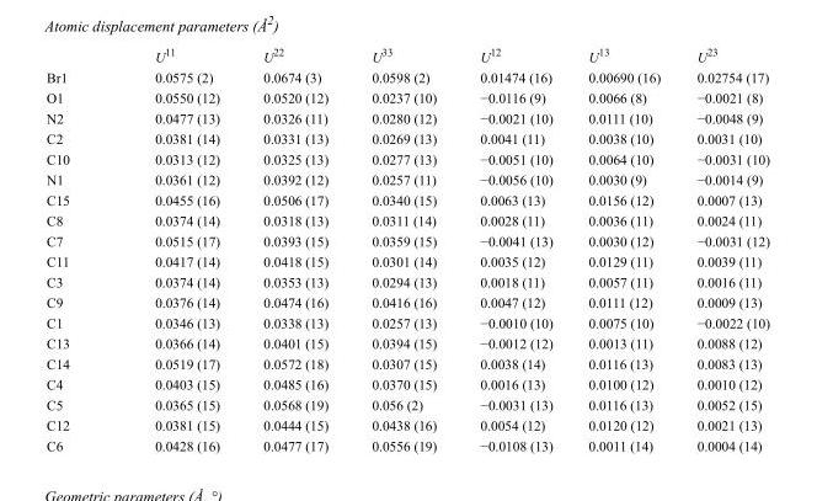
<table><thead><tr><td></td><td>U<sup>11</sup></td><td>U<sup>22</sup></td><td>U<sup>33</sup></td><td>U<sup>12</sup></td><td>U<sup>13</sup></td><td>U<sup>23</sup></td></tr></thead><tbody><tr><td>Br1</td><td>0.0575 (2)</td><td>0.0674 (3)</td><td>0.0598 (2)</td><td>0.01474 (16)</td><td>0.00690 (16)</td><td>0.02754 (17)</td></tr><tr><td>O1</td><td>0.0550 (12)</td><td>0.0520 (12)</td><td>0.0237 (10)</td><td>−0.0116 (9)</td><td>0.0066 (8)</td><td>−0.0021 (8)</td></tr><tr><td>N2</td><td>0.0477 (13)</td><td>0.0326 (11)</td><td>0.0280 (12)</td><td>−0.0021 (10)</td><td>0.0111 (10)</td><td>−0.0048 (9)</td></tr><tr><td>C2</td><td>0.0381 (14)</td><td>0.0331 (13)</td><td>0.0269 (13)</td><td>0.0041 (11)</td><td>0.0038 (10)</td><td>0.0031 (10)</td></tr><tr><td>C10</td><td>0.0313 (12)</td><td>0.0325 (13)</td><td>0.0277 (13)</td><td>−0.0051 (10)</td><td>0.0064 (10)</td><td>−0.0031 (10)</td></tr><tr><td>N1</td><td>0.0361 (12)</td><td>0.0392 (12)</td><td>0.0257 (11)</td><td>−0.0056 (10)</td><td>0.0030 (9)</td><td>−0.0014 (9)</td></tr><tr><td>C15</td><td>0.0455 (16)</td><td>0.0506 (17)</td><td>0.0340 (15)</td><td>0.0063 (13)</td><td>0.0156 (12)</td><td>0.0007 (13)</td></tr><tr><td>C8</td><td>0.0374 (14)</td><td>0.0318 (13)</td><td>0.0311 (14)</td><td>0.0028 (11)</td><td>0.0036 (11)</td><td>0.0024 (11)</td></tr><tr><td>C7</td><td>0.0515 (17)</td><td>0.0393 (15)</td><td>0.0359 (15)</td><td>−0.0041 (13)</td><td>0.0030 (12)</td><td>−0.0031 (12)</td></tr><tr><td>C11</td><td>0.0417 (14)</td><td>0.0418 (15)</td><td>0.0301 (14)</td><td>0.0035 (12)</td><td>0.0129 (11)</td><td>0.0039 (11)</td></tr><tr><td>C3</td><td>0.0374 (14)</td><td>0.0353 (13)</td><td>0.0294 (13)</td><td>0.0018 (11)</td><td>0.0057 (11)</td><td>0.0016 (11)</td></tr><tr><td>C9</td><td>0.0376 (14)</td><td>0.0474 (16)</td><td>0.0416 (16)</td><td>0.0047 (12)</td><td>0.0111 (12)</td><td>0.0009 (13)</td></tr><tr><td>C1</td><td>0.0346 (13)</td><td>0.0338 (13)</td><td>0.0257 (13)</td><td>−0.0010 (10)</td><td>0.0075 (10)</td><td>−0.0022 (10)</td></tr><tr><td>C13</td><td>0.0366 (14)</td><td>0.0401 (15)</td><td>0.0394 (15)</td><td>−0.0012 (12)</td><td>0.0013 (11)</td><td>0.0088 (12)</td></tr><tr><td>C14</td><td>0.0519 (17)</td><td>0.0572 (18)</td><td>0.0307 (15)</td><td>0.0038 (14)</td><td>0.0116 (13)</td><td>0.0083 (13)</td></tr><tr><td>C4</td><td>0.0403 (15)</td><td>0.0485 (16)</td><td>0.0370 (15)</td><td>0.0016 (13)</td><td>0.0100 (12)</td><td>0.0010 (12)</td></tr><tr><td>C5</td><td>0.0365 (15)</td><td>0.0568 (19)</td><td>0.056 (2)</td><td>−0.0031 (13)</td><td>0.0116 (13)</td><td>0.0052 (15)</td></tr><tr><td>C12</td><td>0.0381 (15)</td><td>0.0444 (15)</td><td>0.0438 (16)</td><td>0.0054 (12)</td><td>0.0120 (12)</td><td>0.0021 (13)</td></tr><tr><td>C6</td><td>0.0428 (16)</td><td>0.0477 (17)</td><td>0.0556 (19)</td><td>−0.0108 (13)</td><td>0.0011 (14)</td><td>0.0004 (14)</td></tr></tbody></table>